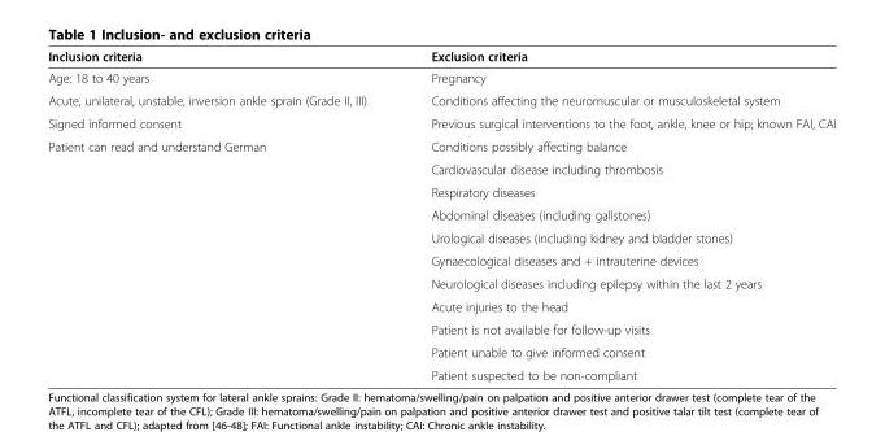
<table><thead><tr><td>Inclusion criteria</td><td>Exclusion criteria</td></tr></thead><tbody><tr><td>Age: 18 to 40 years</td><td>Pregnancy</td></tr><tr><td>Acute, unilateral, unstable, inversion ankle sprain (Grade II, III)</td><td>Conditions affecting the neuromuscular or musculoskeletal system</td></tr><tr><td>Signed informed consent</td><td>Previous surgical interventions to the foot, ankle, knee or hip; known FAI, CAI</td></tr><tr><td rowspan="11">Patient can read and understand German</td><td>Conditions possibly affecting balance</td></tr><tr><td>Cardiovascular disease including thrombosis</td></tr><tr><td>Respiratory diseases</td></tr><tr><td>Abdominal diseases (including gallstones)</td></tr><tr><td>Urological diseases (including kidney and bladder stones)</td></tr><tr><td>Gynaecological diseases and + intrauterine devices</td></tr><tr><td>Neurological diseases including epilepsy within the last 2 years</td></tr><tr><td>Acute injuries to the head</td></tr><tr><td>Patient is not available for follow-up visits</td></tr><tr><td>Patient unable to give informed consent</td></tr><tr><td>Patient suspected to be non-compliant</td></tr></tbody></table>